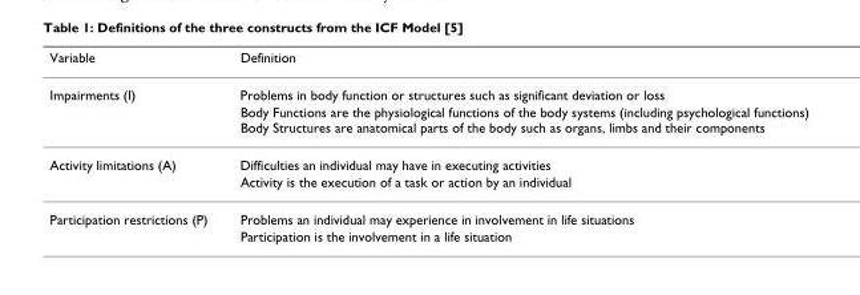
<table><thead><tr><td>Variable</td><td>Definition</td></tr></thead><tbody><tr><td rowspan="2">Impairments (I)</td><td>Problems in body function or structures such as significant deviation or loss</td></tr><tr><td>Body Functions are the physiological functions of the body systems (including psychological functions) Body Structures are anatomical parts of the body such as organs, limbs and their components</td></tr><tr><td rowspan="2">Activity limitations (A)</td><td>Difficulties an individual may have in executing activities</td></tr><tr><td>Activity is the execution of a task or action by an individual</td></tr><tr><td rowspan="2">Participation restrictions (P)</td><td>Problems an individual may experience in involvement in life situations</td></tr><tr><td>Participation is the involvement in a life situation</td></tr></tbody></table>